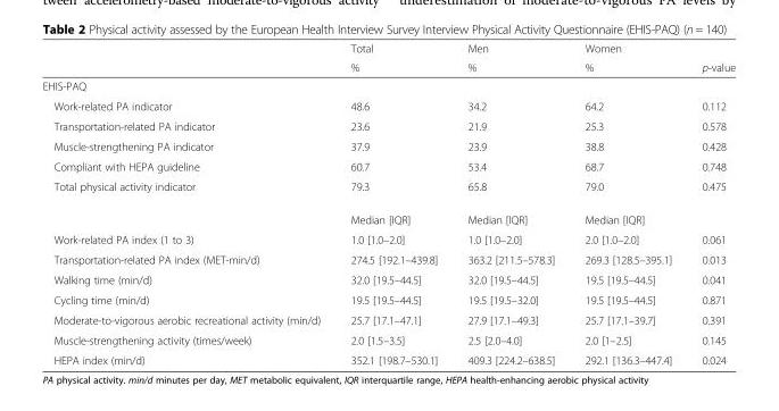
<table><thead><tr><td rowspan="2"></td><td rowspan="2">Total %</td><td rowspan="2">Men %</td><td rowspan="2">Women %</td><td rowspan="2">p-value</td></tr><tr></tr></thead><tbody><tr><td colspan="5">EHIS-PAQ</td></tr><tr><td>Work-related PA indicator</td><td>48.6</td><td>34.2</td><td>64.2</td><td>0.112</td></tr><tr><td>Transportation-related PA indicator</td><td>23.6</td><td>21.9</td><td>25.3</td><td>0.578</td></tr><tr><td>Muscle-strengthening PA indicator</td><td>37.9</td><td>23.9</td><td>38.8</td><td>0.428</td></tr><tr><td>Compliant with HEPA guideline</td><td>60.7</td><td>53.4</td><td>68.7</td><td>0.748</td></tr><tr><td rowspan="2">Total physical activity indicator</td><td>79.3</td><td>65.8</td><td>79.0</td><td>0.475</td></tr><tr><td>Median [IQR]</td><td>Median [IQR]</td><td>Median [IQR]</td><td></td></tr><tr><td>Work-related PA index (1 to 3)</td><td>1.0 [1.0–2.0]</td><td>1.0 [1.0–2.0]</td><td>2.0 [1.0–2.0]</td><td>0.061</td></tr><tr><td>Transportation-related PA index (MET-min/d)</td><td>274.5 [192.1–439.8]</td><td>363.2 [211.5–578.3]</td><td>269.3 [128.5–395.1]</td><td>0.013</td></tr><tr><td>Walking time (min/d)</td><td>32.0 [19.5–44.5]</td><td>32.0 [19.5–44.5]</td><td>19.5 [19.5–44.5]</td><td>0.041</td></tr><tr><td>Cycling time (min/d)</td><td>19.5 [19.5–44.5]</td><td>19.5 [19.5–32.0]</td><td>19.5 [19.5–44.5]</td><td>0.871</td></tr><tr><td>Moderate-to-vigorous aerobic recreational activity (min/d)</td><td>25.7 [17.1–47.1]</td><td>27.9 [17.1–49.3]</td><td>25.7 [17.1–39.7]</td><td>0.391</td></tr><tr><td>Muscle-strengthening activity (times/week)</td><td>2.0 [1.5–3.5]</td><td>2.5 [2.0–4.0]</td><td>2.0 [1–2.5]</td><td>0.145</td></tr><tr><td>HEPA index (min/d)</td><td>352.1 [198.7–530.1]</td><td>409.3 [224.2–638.5]</td><td>292.1 [136.3–447.4]</td><td>0.024</td></tr></tbody></table>